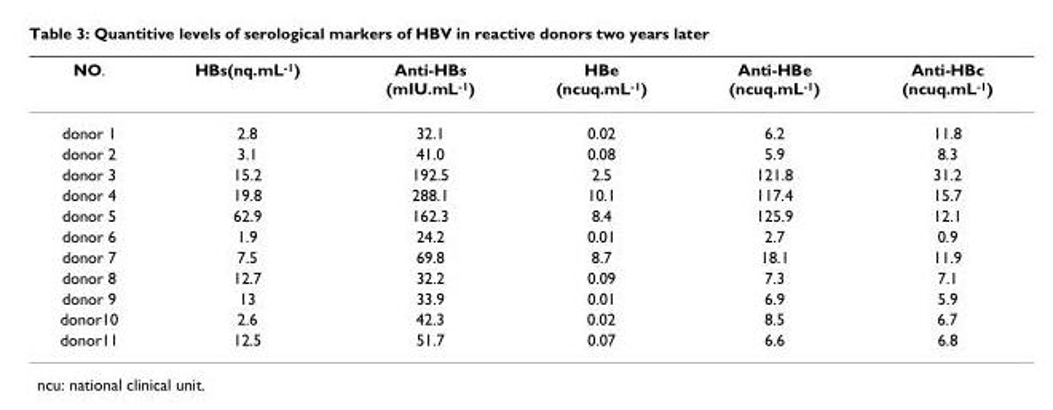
<table><thead><tr><td>NO.</td><td>HBs(nq.mL<sup>-1</sup>)</td><td>Anti-HBs (mIU.mL<sup>-1</sup>)</td><td>HBe (ncuq.mL<sup>-1</sup>)</td><td>Anti-HBe (ncuq.mL<sup>-1</sup>)</td><td>Anti-HBc (ncuq.mL<sup>-1</sup>)</td></tr></thead><tbody><tr><td>donor 1</td><td>2.8</td><td>32.1</td><td>0.02</td><td>6.2</td><td>11.8</td></tr><tr><td>donor 2</td><td>3.1</td><td>41.0</td><td>0.08</td><td>5.9</td><td>8.3</td></tr><tr><td>donor 3</td><td>15.2</td><td>192.5</td><td>2.5</td><td>121.8</td><td>31.2</td></tr><tr><td>donor 4</td><td>19.8</td><td>288.1</td><td>10.1</td><td>117.4</td><td>15.7</td></tr><tr><td>donor 5</td><td>62.9</td><td>162.3</td><td>8.4</td><td>125.9</td><td>12.1</td></tr><tr><td>donor 6</td><td>1.9</td><td>24.2</td><td>0.01</td><td>2.7</td><td>0.9</td></tr><tr><td>donor 7</td><td>7.5</td><td>69.8</td><td>8.7</td><td>18.1</td><td>11.9</td></tr><tr><td>donor 8</td><td>12.7</td><td>32.2</td><td>0.09</td><td>7.3</td><td>7.1</td></tr><tr><td>donor 9</td><td>13</td><td>33.9</td><td>0.01</td><td>6.9</td><td>5.9</td></tr><tr><td>donor10</td><td>2.6</td><td>42.3</td><td>0.02</td><td>8.5</td><td>6.7</td></tr><tr><td>donor11</td><td>12.5</td><td>51.7</td><td>0.07</td><td>6.6</td><td>6.8</td></tr></tbody></table>